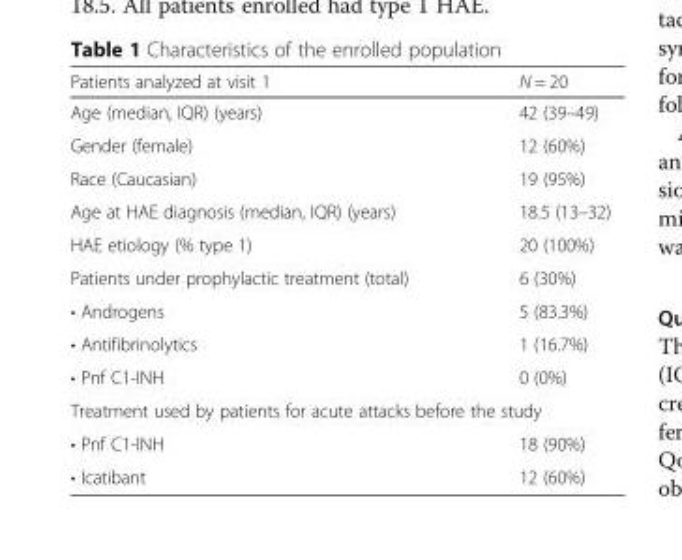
<table><thead><tr><td>Patients analyzed at visit 1</td><td>N = 20</td></tr></thead><tbody><tr><td>Age (median, IQR) (years)</td><td>42 (39–49)</td></tr><tr><td>Gender (female)</td><td>12 (60%)</td></tr><tr><td>Race (Caucasian)</td><td>19 (95%)</td></tr><tr><td>Age at HAE diagnosis (median, IQR) (years)</td><td>18.5 (13–32)</td></tr><tr><td>HAE etiology (% type 1)</td><td>20 (100%)</td></tr><tr><td>Patients under prophylactic treatment (total)</td><td>6 (30%)</td></tr><tr><td>• Androgens</td><td>5 (83.3%)</td></tr><tr><td>• Antifibrinolytics</td><td>1 (16.7%)</td></tr><tr><td>• Pnf C1-INH</td><td>0 (0%)</td></tr><tr><td colspan="2">Treatment used by patients for acute attacks before the study</td></tr><tr><td>• Pnf C1-INH</td><td>18 (90%)</td></tr><tr><td>• Icatibant</td><td>12 (60%)</td></tr></tbody></table>